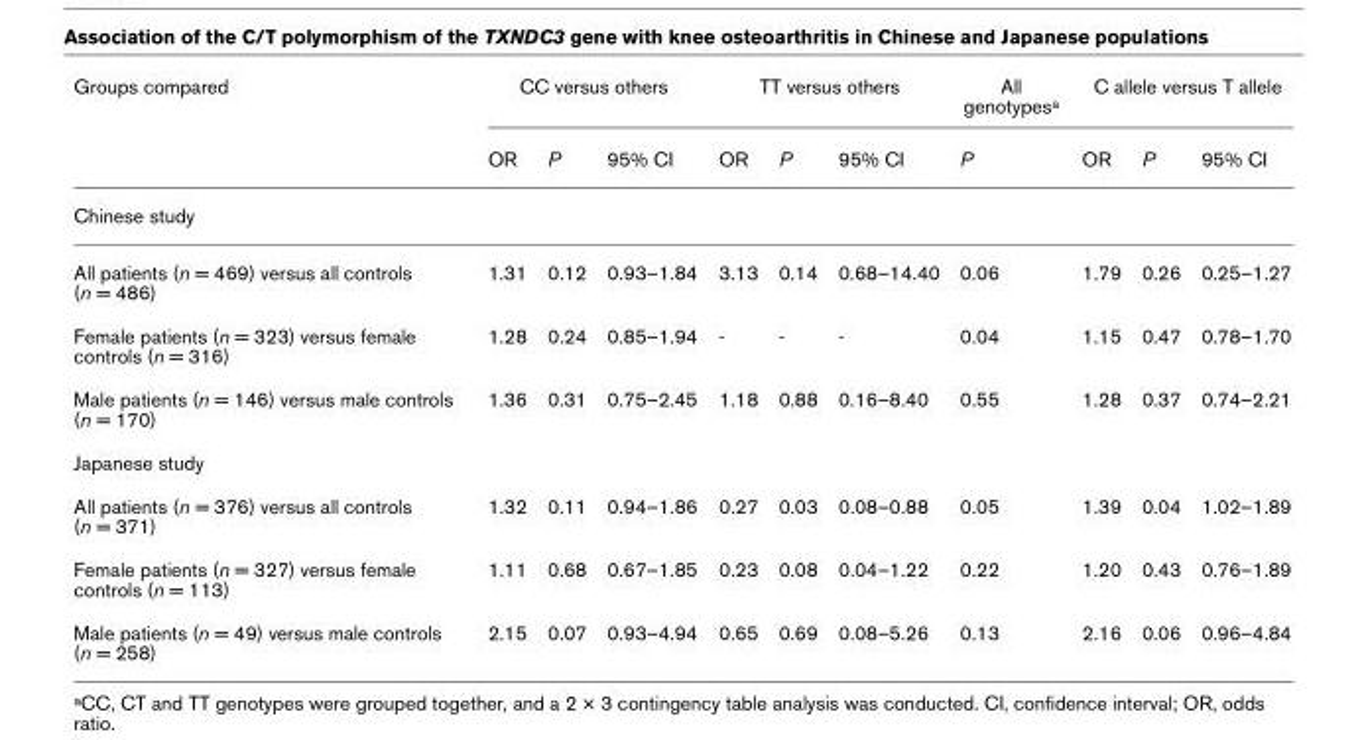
<table><thead><tr><td rowspan="2">Groups compared</td><td colspan="3">CC versus others</td><td colspan="3">TT versus others</td><td rowspan="2">All genotypes<sup>a</sup> P</td><td colspan="3">C allele versus T allele</td></tr><tr><td>OR</td><td>P</td><td>95% CI</td><td>OR</td><td>P</td><td>95% CI</td><td>OR</td><td>P</td><td>95% CI</td></tr></thead><tbody><tr><td colspan="11">Chinese study</td></tr><tr><td>All patients (n = 469) versus all controls (n = 486)</td><td>1.31</td><td>0.12</td><td>0.93–1.84</td><td>3.13</td><td>0.14</td><td>0.68–14.40</td><td>0.06</td><td>1.79</td><td>0.26</td><td>0.25–1.27</td></tr><tr><td>Female patients (n = 323) versus female controls (n = 316)</td><td>1.28</td><td>0.24</td><td>0.85–1.94</td><td>-</td><td>-</td><td>-</td><td>0.04</td><td>1.15</td><td>0.47</td><td>0.78–1.70</td></tr><tr><td>Male patients (n = 146) versus male controls (n = 170)</td><td>1.36</td><td>0.31</td><td>0.75–2.45</td><td>1.18</td><td>0.88</td><td>0.16–8.40</td><td>0.55</td><td>1.28</td><td>0.37</td><td>0.74–2.21</td></tr><tr><td colspan="11">Japanese study</td></tr><tr><td>All patients (n = 376) versus all controls (n = 371)</td><td>1.32</td><td>0.11</td><td>0.94–1.86</td><td>0.27</td><td>0.03</td><td>0.08–0.88</td><td>0.05</td><td>1.39</td><td>0.04</td><td>1.02–1.89</td></tr><tr><td>Female patients (n = 327) versus female controls (n = 113)</td><td>1.11</td><td>0.68</td><td>0.67–1.85</td><td>0.23</td><td>0.08</td><td>0.04–1.22</td><td>0.22</td><td>1.20</td><td>0.43</td><td>0.76–1.89</td></tr><tr><td>Male patients (n = 49) versus male controls (n = 258)</td><td>2.15</td><td>0.07</td><td>0.93–4.94</td><td>0.65</td><td>0.69</td><td>0.08–5.26</td><td>0.13</td><td>2.16</td><td>0.06</td><td>0.96–4.84</td></tr></tbody></table>